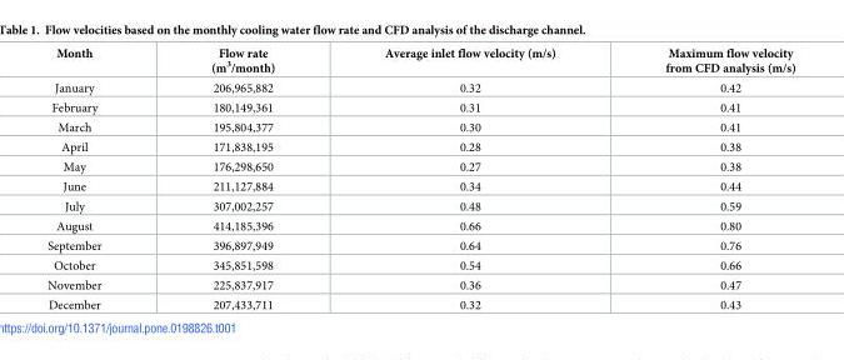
<table><thead><tr><td>Month</td><td>Flow rate (m<sup>3</sup>/month)</td><td>Average inlet flow velocity (m/s)</td><td>Maximum flow velocity from CFD analysis (m/s)</td></tr></thead><tbody><tr><td>January</td><td>206,965,882</td><td>0.32</td><td>0.42</td></tr><tr><td>February</td><td>180,149,361</td><td>0.31</td><td>0.41</td></tr><tr><td>March</td><td>195,804,377</td><td>0.30</td><td>0.41</td></tr><tr><td>April</td><td>171,838,195</td><td>0.28</td><td>0.38</td></tr><tr><td>May</td><td>176,298,650</td><td>0.27</td><td>0.38</td></tr><tr><td>June</td><td>211,127,884</td><td>0.34</td><td>0.44</td></tr><tr><td>July</td><td>307,002,257</td><td>0.48</td><td>0.59</td></tr><tr><td>August</td><td>414,185,396</td><td>0.66</td><td>0.80</td></tr><tr><td>September</td><td>396,897,949</td><td>0.64</td><td>0.76</td></tr><tr><td>October</td><td>345,851,598</td><td>0.54</td><td>0.66</td></tr><tr><td>November</td><td>225,837,917</td><td>0.36</td><td>0.47</td></tr><tr><td>December</td><td>207,433,711</td><td>0.32</td><td>0.43</td></tr></tbody></table>